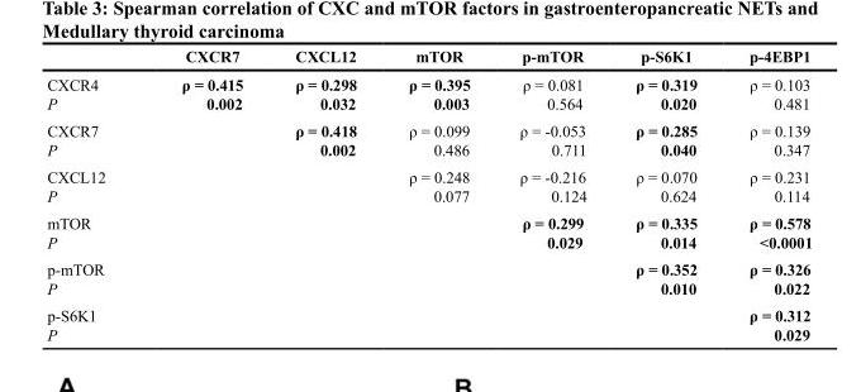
<table><thead><tr><td></td><td>CXCR7</td><td>CXCL12</td><td>mTOR</td><td>p-mTOR</td><td>p-S6K1</td><td>p-4EBP1</td></tr></thead><tbody><tr><td>CXCR4 P</td><td>ρ = 0.415 0.002</td><td>ρ = 0.298 0.032</td><td>ρ = 0.395 0.003</td><td>ρ = 0.081 0.564</td><td>ρ = 0.319 0.020</td><td>ρ = 0.103 0.481</td></tr><tr><td>CXCR7 P</td><td></td><td>ρ = 0.418 0.002</td><td>ρ = 0.099 0.486</td><td>ρ = -0.053 0.711</td><td>ρ = 0.285 0.040</td><td>ρ = 0.139 0.347</td></tr><tr><td>CXCL12 P</td><td></td><td></td><td>ρ = 0.248 0.077</td><td>ρ = -0.216 0.124</td><td>ρ = 0.070 0.624</td><td>ρ = 0.231 0.114</td></tr><tr><td>mTOR P</td><td></td><td></td><td></td><td>ρ = 0.299 0.029</td><td>ρ = 0.335 0.014</td><td>ρ = 0.578 &lt;0.0001</td></tr><tr><td>p-mTOR P</td><td></td><td></td><td></td><td></td><td>ρ = 0.352 0.010</td><td>ρ = 0.326 0.022</td></tr><tr><td>p-S6K1 P</td><td></td><td></td><td></td><td></td><td></td><td>ρ = 0.312 0.029</td></tr></tbody></table>